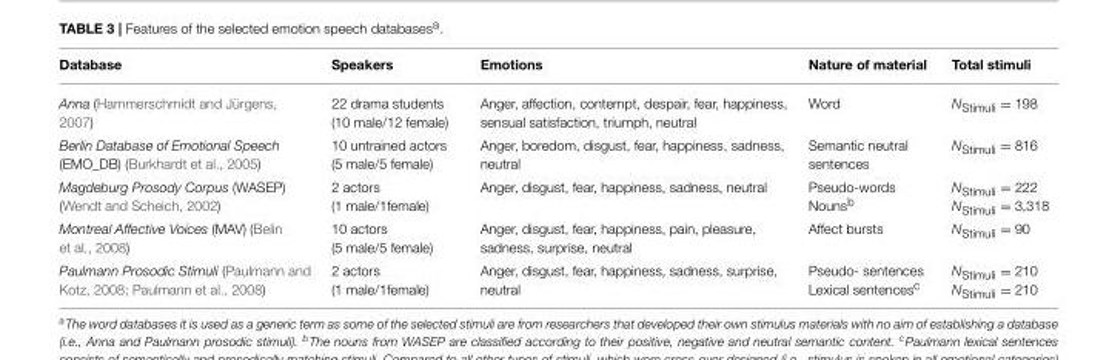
<table><thead><tr><td>Database</td><td>Speakers</td><td>Emotions</td><td>Nature of material</td><td>Total stimuli</td></tr></thead><tbody><tr><td>Anna (Hammerschmidt and Jürgens, 2007)</td><td>22 drama students (10 male/12 female)</td><td>Anger, affection, contempt, despair, fear, happiness, sensual satisfaction, triumph, neutral</td><td>Word</td><td>N<sub>Stimuli</sub> = 198</td></tr><tr><td>Berlin Database of Emotional Speech (EMO_DB) (Burkhardt et al., 2005)</td><td>10 untrained actors (5 male/5 female)</td><td>Anger, boredom, disgust, fear, happiness, sadness, neutral</td><td>Semantic neutral sentences</td><td>N<sub>Stimuli</sub> = 816</td></tr><tr><td>Magdeburg Prosody Corpus (WASEP) (Wendt and Scheich, 2002)</td><td>2 actors (1 male/1female)</td><td>Anger, disgust, fear, happiness, sadness, neutral</td><td>Pseudo-words Nouns<sup>b</sup></td><td>N<sub>Stimuli</sub> = 222 N<sub>Stimuli</sub> = 3,318</td></tr><tr><td>Montreal Affective Voices (MAV) (Belin et al., 2008)</td><td>10 actors (5 male/5 female)</td><td>Anger, disgust, fear, happiness, pain, pleasure, sadness, surprise, neutral</td><td>Affect bursts</td><td>N<sub>Stimuli</sub> = 90</td></tr><tr><td>Paulmann Prosodic Stimuli (Paulmann and Kotz, 2008; Paulmann et al., 2008)</td><td>2 actors (1 male/1female)</td><td>Anger, disgust, fear, happiness, sadness, surprise, neutral</td><td>Pseudo- sentences Lexical sentences<sup>c</sup></td><td>N<sub>Stimuli</sub> = 210 N<sub>Stimuli</sub> = 210</td></tr></tbody></table>